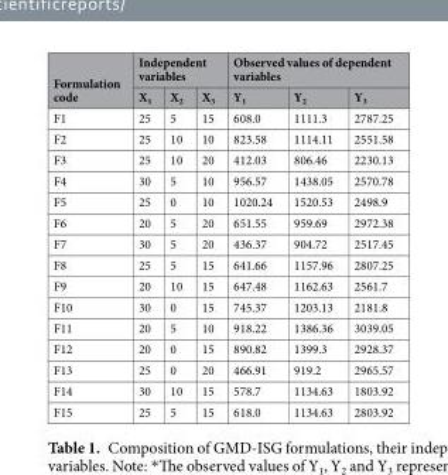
<table><thead><tr><td rowspan="2">Formulation code</td><td colspan="3">Independent variables</td><td colspan="3">Observed values of dependent variables</td></tr><tr><td>X<sub>1</sub></td><td>X<sub>2</sub></td><td>X<sub>3</sub></td><td>Y<sub>1</sub></td><td>Y<sub>2</sub></td><td>Y<sub>3</sub></td></tr></thead><tbody><tr><td>F1</td><td>25</td><td>5</td><td>15</td><td>608.0</td><td>1111.3</td><td>2787.25</td></tr><tr><td>F2</td><td>25</td><td>10</td><td>10</td><td>823.58</td><td>1114.11</td><td>2551.58</td></tr><tr><td>F3</td><td>25</td><td>10</td><td>20</td><td>412.03</td><td>806.46</td><td>2230.13</td></tr><tr><td>F4</td><td>30</td><td>5</td><td>10</td><td>956.57</td><td>1438.05</td><td>2570.78</td></tr><tr><td>F5</td><td>25</td><td>0</td><td>10</td><td>1020.24</td><td>1520.53</td><td>2498.9</td></tr><tr><td>F6</td><td>20</td><td>5</td><td>20</td><td>651.55</td><td>959.69</td><td>2972.38</td></tr><tr><td>F7</td><td>30</td><td>5</td><td>20</td><td>436.37</td><td>904.72</td><td>2517.45</td></tr><tr><td>F8</td><td>25</td><td>5</td><td>15</td><td>641.66</td><td>1157.96</td><td>2807.25</td></tr><tr><td>F9</td><td>20</td><td>10</td><td>15</td><td>647.48</td><td>1162.63</td><td>2561.7</td></tr><tr><td>F10</td><td>30</td><td>0</td><td>15</td><td>745.37</td><td>1203.13</td><td>2181.8</td></tr><tr><td>F11</td><td>20</td><td>5</td><td>10</td><td>918.22</td><td>1386.36</td><td>3039.05</td></tr><tr><td>F12</td><td>20</td><td>0</td><td>15</td><td>890.82</td><td>1399.3</td><td>2928.37</td></tr><tr><td>F13</td><td>25</td><td>0</td><td>20</td><td>466.91</td><td>919.2</td><td>2965.57</td></tr><tr><td>F14</td><td>30</td><td>10</td><td>15</td><td>578.7</td><td>1134.63</td><td>1803.92</td></tr><tr><td>F15</td><td>25</td><td>5</td><td>15</td><td>618.0</td><td>1134.63</td><td>2803.92</td></tr></tbody></table>